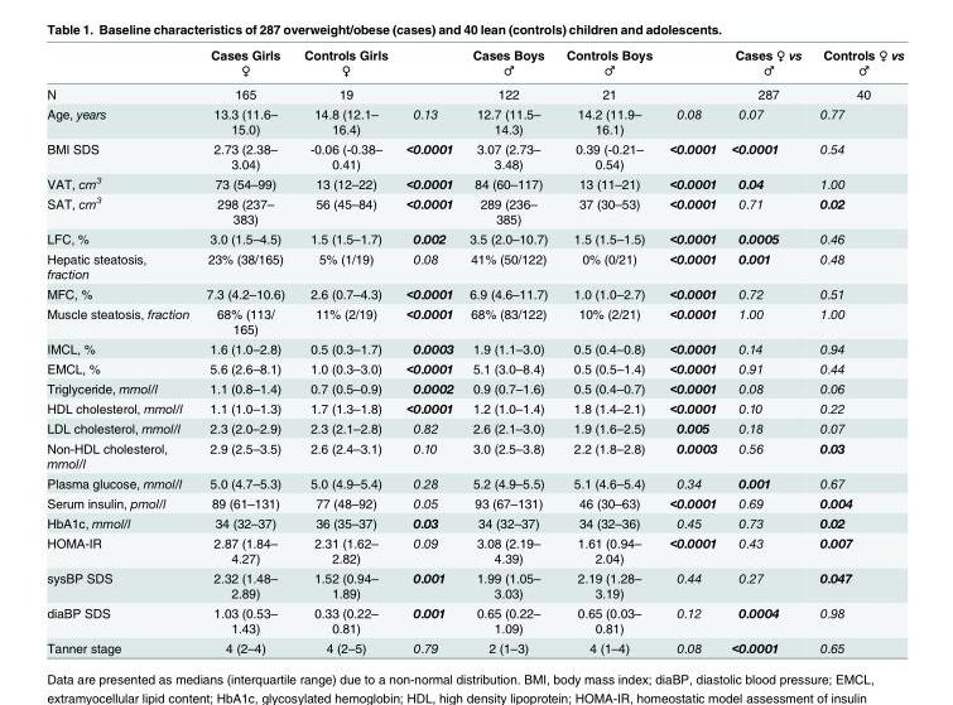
<table><thead><tr><td></td><td>Cases Girls ♀</td><td>Controls Girls ♀</td><td></td><td>Cases Boys ♂</td><td>Controls Boys ♂</td><td></td><td>Cases ♀ vs ♂</td><td>Controls ♀ vs ♂</td></tr></thead><tbody><tr><td>N</td><td>165</td><td>19</td><td></td><td>122</td><td>21</td><td></td><td>287</td><td>40</td></tr><tr><td>Age, years</td><td>13.3 (11.6– 15.0)</td><td>14.8 (12.1– 16.4)</td><td>0.13</td><td>12.7 (11.5– 14.3)</td><td>14.2 (11.9– 16.1)</td><td>0.08</td><td>0.07</td><td>0.77</td></tr><tr><td>BMI SDS</td><td>2.73 (2.38– 3.04)</td><td>-0.06 (-0.38– 0.41)</td><td>&lt;0.0001</td><td>3.07 (2.73– 3.48)</td><td>0.39 (-0.21– 0.54)</td><td>&lt;0.0001</td><td>&lt;0.0001</td><td>0.54</td></tr><tr><td>VAT, cm<sup>3</sup></td><td>73 (54–99)</td><td>13 (12–22)</td><td>&lt;0.0001</td><td>84 (60–117)</td><td>13 (11–21)</td><td>&lt;0.0001</td><td>0.04</td><td>1.00</td></tr><tr><td>SAT, cm<sup>3</sup></td><td>298 (237– 383)</td><td>56 (45–84)</td><td>&lt;0.0001</td><td>289 (236– 385)</td><td>37 (30–53)</td><td>&lt;0.0001</td><td>0.71</td><td>0.02</td></tr><tr><td>LFC, %</td><td>3.0 (1.5–4.5)</td><td>1.5 (1.5–1.7)</td><td>0.002</td><td>3.5 (2.0–10.7)</td><td>1.5 (1.5–1.5)</td><td>&lt;0.0001</td><td>0.0005</td><td>0.46</td></tr><tr><td>Hepatic steatosis, fraction</td><td>23% (38/165)</td><td>5% (1/19)</td><td>0.08</td><td>41% (50/122)</td><td>0% (0/21)</td><td>&lt;0.0001</td><td>0.001</td><td>0.48</td></tr><tr><td>MFC, %</td><td>7.3 (4.2–10.6)</td><td>2.6 (0.7–4.3)</td><td>&lt;0.0001</td><td>6.9 (4.6–11.7)</td><td>1.0 (1.0–2.7)</td><td>&lt;0.0001</td><td>0.72</td><td>0.51</td></tr><tr><td>Muscle steatosis, fraction</td><td>68% (113/ 165)</td><td>11% (2/19)</td><td>&lt;0.0001</td><td>68% (83/122)</td><td>10% (2/21)</td><td>&lt;0.0001</td><td>1.00</td><td>1.00</td></tr><tr><td>IMCL, %</td><td>1.6 (1.0–2.8)</td><td>0.5 (0.3–1.7)</td><td>0.0003</td><td>1.9 (1.1–3.0)</td><td>0.5 (0.4–0.8)</td><td>&lt;0.0001</td><td>0.14</td><td>0.94</td></tr><tr><td>EMCL, %</td><td>5.6 (2.6–8.1)</td><td>1.0 (0.3–3.0)</td><td>&lt;0.0001</td><td>5.1 (3.0–8.4)</td><td>0.5 (0.5–1.4)</td><td>&lt;0.0001</td><td>0.91</td><td>0.44</td></tr><tr><td>Triglyceride, mmol/l</td><td>1.1 (0.8–1.4)</td><td>0.7 (0.5–0.9)</td><td>0.0002</td><td>0.9 (0.7–1.6)</td><td>0.5 (0.4–0.7)</td><td>&lt;0.0001</td><td>0.08</td><td>0.06</td></tr><tr><td>HDL cholesterol, mmol/l</td><td>1.1 (1.0–1.3)</td><td>1.7 (1.3–1.8)</td><td>&lt;0.0001</td><td>1.2 (1.0–1.4)</td><td>1.8 (1.4–2.1)</td><td>&lt;0.0001</td><td>0.10</td><td>0.22</td></tr><tr><td>LDL cholesterol, mmol/l</td><td>2.3 (2.0–2.9)</td><td>2.3 (2.1–2.8)</td><td>0.82</td><td>2.6 (2.1–3.0)</td><td>1.9 (1.6–2.5)</td><td>0.005</td><td>0.18</td><td>0.07</td></tr><tr><td>Non-HDL cholesterol, mmol/l</td><td>2.9 (2.5–3.5)</td><td>2.6 (2.4–3.1)</td><td>0.10</td><td>3.0 (2.5–3.8)</td><td>2.2 (1.8–2.8)</td><td>0.0003</td><td>0.56</td><td>0.03</td></tr><tr><td>Plasma glucose, mmol/l</td><td>5.0 (4.7–5.3)</td><td>5.0 (4.9–5.4)</td><td>0.28</td><td>5.2 (4.9–5.5)</td><td>5.1 (4.6–5.4)</td><td>0.34</td><td>0.001</td><td>0.67</td></tr><tr><td>Serum insulin, pmol/l</td><td>89 (61–131)</td><td>77 (48–92)</td><td>0.05</td><td>93 (67–131)</td><td>46 (30–63)</td><td>&lt;0.0001</td><td>0.69</td><td>0.004</td></tr><tr><td>HbA1c, mmol/l</td><td>34 (32–37)</td><td>36 (35–37)</td><td>0.03</td><td>34 (32–37)</td><td>34 (32–36)</td><td>0.45</td><td>0.73</td><td>0.02</td></tr><tr><td>HOMA-IR</td><td>2.87 (1.84– 4.27)</td><td>2.31 (1.62– 2.82)</td><td>0.09</td><td>3.08 (2.19– 4.39)</td><td>1.61 (0.94– 2.04)</td><td>&lt;0.0001</td><td>0.43</td><td>0.007</td></tr><tr><td>sysBP SDS</td><td>2.32 (1.48– 2.89)</td><td>1.52 (0.94– 1.89)</td><td>0.001</td><td>1.99 (1.05– 3.03)</td><td>2.19 (1.28– 3.19)</td><td>0.44</td><td>0.27</td><td>0.047</td></tr><tr><td>diaBP SDS</td><td>1.03 (0.53– 1.43)</td><td>0.33 (0.22– 0.81)</td><td>0.001</td><td>0.65 (0.22– 1.09)</td><td>0.65 (0.03– 0.81)</td><td>0.12</td><td>0.0004</td><td>0.98</td></tr><tr><td>Tanner stage</td><td>4 (2–4)</td><td>4 (2–5)</td><td>0.79</td><td>2 (1–3)</td><td>4 (1–4)</td><td>0.08</td><td>&lt;0.0001</td><td>0.65</td></tr></tbody></table>